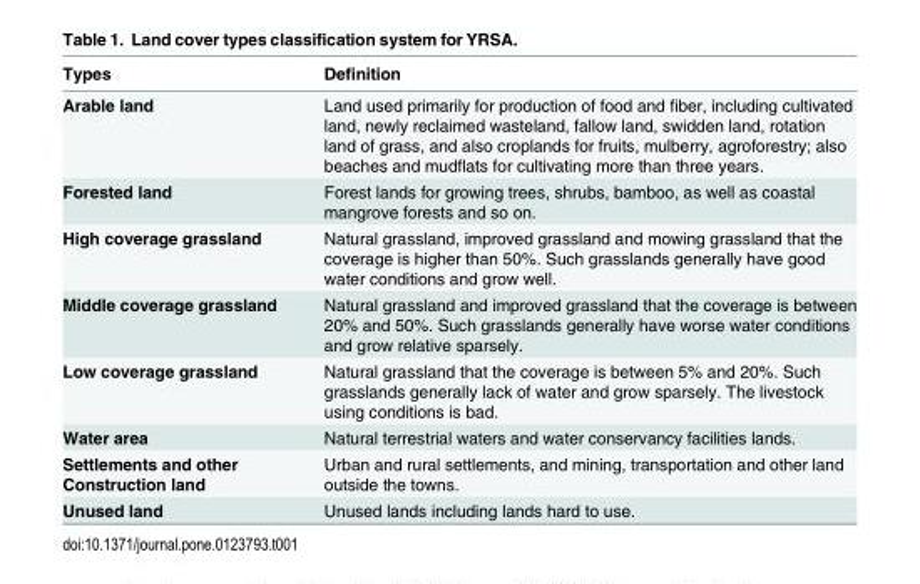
<table><thead><tr><td>Types</td><td>Definition</td></tr></thead><tbody><tr><td>Arable land</td><td>Land used primarily for production of food and fiber, including cultivated land, newly reclaimed wasteland, fallow land, swidden land, rotation land of grass, and also croplands for fruits, mulberry, agroforestry; also beaches and mudflats for cultivating more than three years.</td></tr><tr><td>Forested land</td><td>Forest lands for growing trees, shrubs, bamboo, as well as coastal mangrove forests and so on.</td></tr><tr><td>High coverage grassland</td><td>Natural grassland, improved grassland and mowing grassland that the coverage is higher than 50%. Such grasslands generally have good water conditions and grow well.</td></tr><tr><td>Middle coverage grassland</td><td>Natural grassland and improved grassland that the coverage is between 20% and 50%. Such grasslands generally have worse water conditions and grow relative sparsely.</td></tr><tr><td>Low coverage grassland</td><td>Natural grassland that the coverage is between 5% and 20%. Such grasslands generally lack of water and grow sparsely. The livestock using conditions is bad.</td></tr><tr><td>Water area</td><td>Natural terrestrial waters and water conservancy facilities lands.</td></tr><tr><td>Settlements and other Construction land</td><td>Urban and rural settlements, and mining, transportation and other land outside the towns.</td></tr><tr><td>Unused land</td><td>Unused lands including lands hard to use.</td></tr></tbody></table>